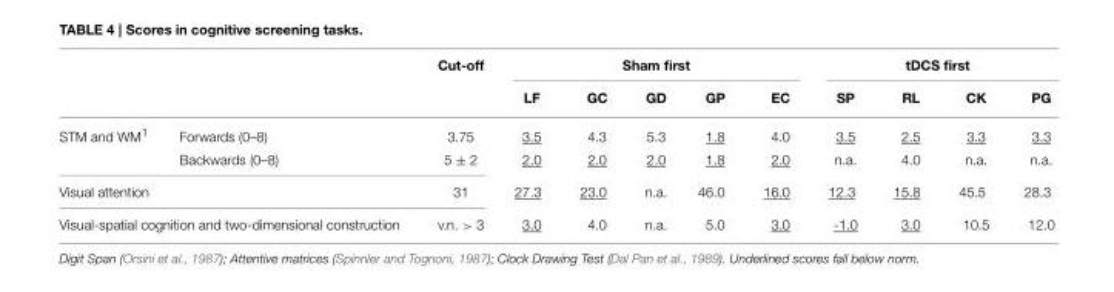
<table><thead><tr><td rowspan="2"></td><td rowspan="2"></td><td rowspan="2">Cut-off</td><td colspan="5">Sham first</td><td colspan="4">tDCS first</td></tr><tr><td>LF</td><td>GC</td><td>GD</td><td>GP</td><td>EC</td><td>SP</td><td>RL</td><td>CK</td><td>PG</td></tr></thead><tbody><tr><td rowspan="2">STM and WM<sup>1</sup></td><td>Forwards (0–8)</td><td>3.75</td><td>3.5</td><td>4.3</td><td>5.3</td><td>1.8</td><td>4.0</td><td>3.5</td><td>2.5</td><td>3.3</td><td>3.3</td></tr><tr><td>Backwards (0–8)</td><td>5 ± 2</td><td>2.0</td><td>2.0</td><td>2.0</td><td>1.8</td><td>2.0</td><td>n.a.</td><td>4.0</td><td>n.a.</td><td>n.a.</td></tr><tr><td colspan="2">Visual attention</td><td>31</td><td>27.3</td><td>23.0</td><td>n.a.</td><td>46.0</td><td>16.0</td><td>12.3</td><td>15.8</td><td>45.5</td><td>28.3</td></tr><tr><td colspan="2">Visual-spatial cognition and two-dimensional construction</td><td>v.n. &gt; 3</td><td>3.0</td><td>4.0</td><td>n.a.</td><td>5.0</td><td>3.0</td><td>-1.0</td><td>3.0</td><td>10.5</td><td>12.0</td></tr></tbody></table>